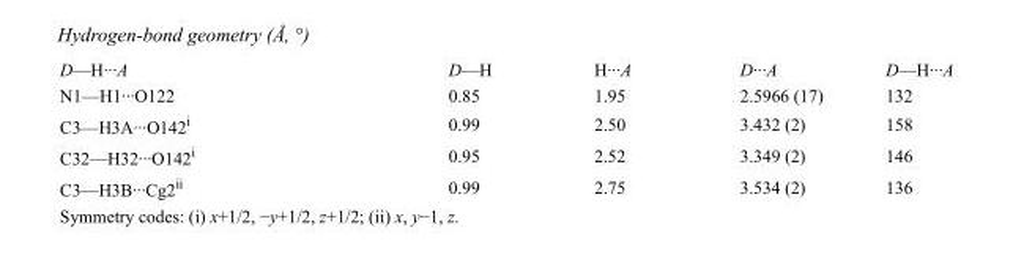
<table><tbody><tr><td>D—H···A</td><td>D—H</td><td>H···A</td><td>D···A</td><td>D—H···A</td></tr><tr><td>N1—H1···O122</td><td>0.85</td><td>1.95</td><td>2.5966 (17)</td><td>132</td></tr><tr><td>C3—H3A···O142<sup>i</sup></td><td>0.99</td><td>2.50</td><td>3.432 (2)</td><td>158</td></tr><tr><td>C32—H32···O142<sup>i</sup></td><td>0.95</td><td>2.52</td><td>3.349 (2)</td><td>146</td></tr><tr><td>C3—H3B···Cg2<sup>ii</sup></td><td>0.99</td><td>2.75</td><td>3.534 (2)</td><td>136</td></tr></tbody></table>